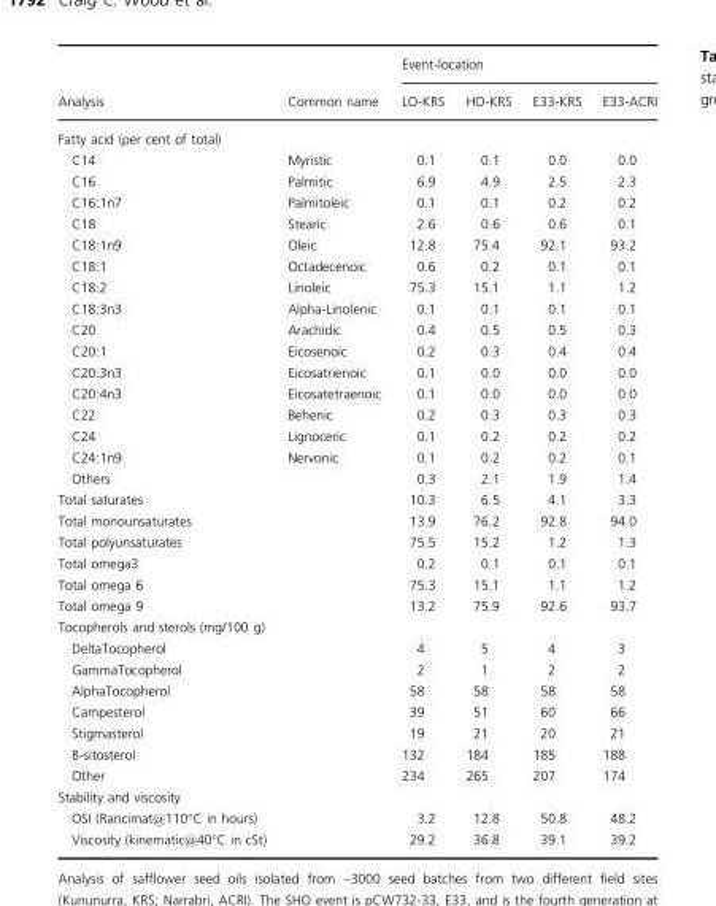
<table><thead><tr><td rowspan="2">Analysis</td><td rowspan="2">Common name</td><td colspan="4">Event-location</td></tr><tr><td>LO-KRS</td><td>HO-KRS</td><td>E33-KRS</td><td>E33-ACRI</td></tr></thead><tbody><tr><td colspan="6">Fatty acid (per cent of total)</td></tr><tr><td>C14</td><td>Myristic</td><td>0.1</td><td>0.1</td><td>0.0</td><td>0.0</td></tr><tr><td>C16</td><td>Palmitic</td><td>6.9</td><td>4.9</td><td>2.5</td><td>2.3</td></tr><tr><td>C16:1n7</td><td>Palmitoleic</td><td>0.1</td><td>0.1</td><td>0.2</td><td>0.2</td></tr><tr><td>C18</td><td>Stearic</td><td>2.6</td><td>0.6</td><td>0.6</td><td>0.1</td></tr><tr><td>C18:1n9</td><td>Oleic</td><td>12.8</td><td>75.4</td><td>92.1</td><td>93.2</td></tr><tr><td>C18:1</td><td>Octadecenoic</td><td>0.6</td><td>0.2</td><td>0.1</td><td>0.1</td></tr><tr><td>C18:2</td><td>Linoleic</td><td>75.3</td><td>15.1</td><td>1.1</td><td>1.2</td></tr><tr><td>C18:3n3</td><td>Alpha-Linolenic</td><td>0.1</td><td>0.1</td><td>0.1</td><td>0.1</td></tr><tr><td>C20</td><td>Arachidic</td><td>0.4</td><td>0.5</td><td>0.5</td><td>0.3</td></tr><tr><td>C20:1</td><td>Eicosenoic</td><td>0.2</td><td>0.3</td><td>0.4</td><td>0.4</td></tr><tr><td>C20:3n3</td><td>Eicosatrienoic</td><td>0.1</td><td>0.0</td><td>0.0</td><td>0.0</td></tr><tr><td>C20:4n3</td><td>Eicosatetraenoic</td><td>0.1</td><td>0.0</td><td>0.0</td><td>0.0</td></tr><tr><td>C22</td><td>Behenic</td><td>0.2</td><td>0.3</td><td>0.3</td><td>0.3</td></tr><tr><td>C24</td><td>Lignoceric</td><td>0.1</td><td>0.2</td><td>0.2</td><td>0.2</td></tr><tr><td>C24:1n9</td><td>Nervonic</td><td>0.1</td><td>0.2</td><td>0.2</td><td>0.1</td></tr><tr><td>Others</td><td></td><td>0.3</td><td>2.1</td><td>1.9</td><td>1.4</td></tr><tr><td>Total saturates</td><td></td><td>10.3</td><td>6.5</td><td>4.1</td><td>3.3</td></tr><tr><td>Total monounsaturates</td><td></td><td>13.9</td><td>76.2</td><td>92.8</td><td>94.0</td></tr><tr><td>Total polyunsaturates</td><td></td><td>75.5</td><td>15.2</td><td>1.2</td><td>1.3</td></tr><tr><td>Total omega3</td><td></td><td>0.2</td><td>0.1</td><td>0.1</td><td>0.1</td></tr><tr><td>Total omega 6</td><td></td><td>75.3</td><td>15.1</td><td>1.1</td><td>1.2</td></tr><tr><td>Total omega 9</td><td></td><td>13.2</td><td>75.9</td><td>92.6</td><td>93.7</td></tr><tr><td colspan="6">Tocopherols and sterols (mg/100 g)</td></tr><tr><td>DeltaTocopherol</td><td></td><td>4</td><td>5</td><td>4</td><td>3</td></tr><tr><td>GammaTocopherol</td><td></td><td>2</td><td>1</td><td>2</td><td>2</td></tr><tr><td>AlphaTocopherol</td><td></td><td>58</td><td>58</td><td>58</td><td>58</td></tr><tr><td>Campesterol</td><td></td><td>39</td><td>51</td><td>60</td><td>66</td></tr><tr><td>Stigmasterol</td><td></td><td>19</td><td>21</td><td>20</td><td>21</td></tr><tr><td>B-sitosterol</td><td></td><td>132</td><td>184</td><td>185</td><td>188</td></tr><tr><td>Other</td><td></td><td>234</td><td>265</td><td>207</td><td>174</td></tr><tr><td colspan="6">Stability and viscosity</td></tr><tr><td>OSI (Rancimat@110°C in hours)</td><td></td><td>3.2</td><td>12.8</td><td>50.8</td><td>48.2</td></tr><tr><td>Viscosity (kinematic@40°C in cSt)</td><td></td><td>29.2</td><td>36.8</td><td>39.1</td><td>39.2</td></tr></tbody></table>